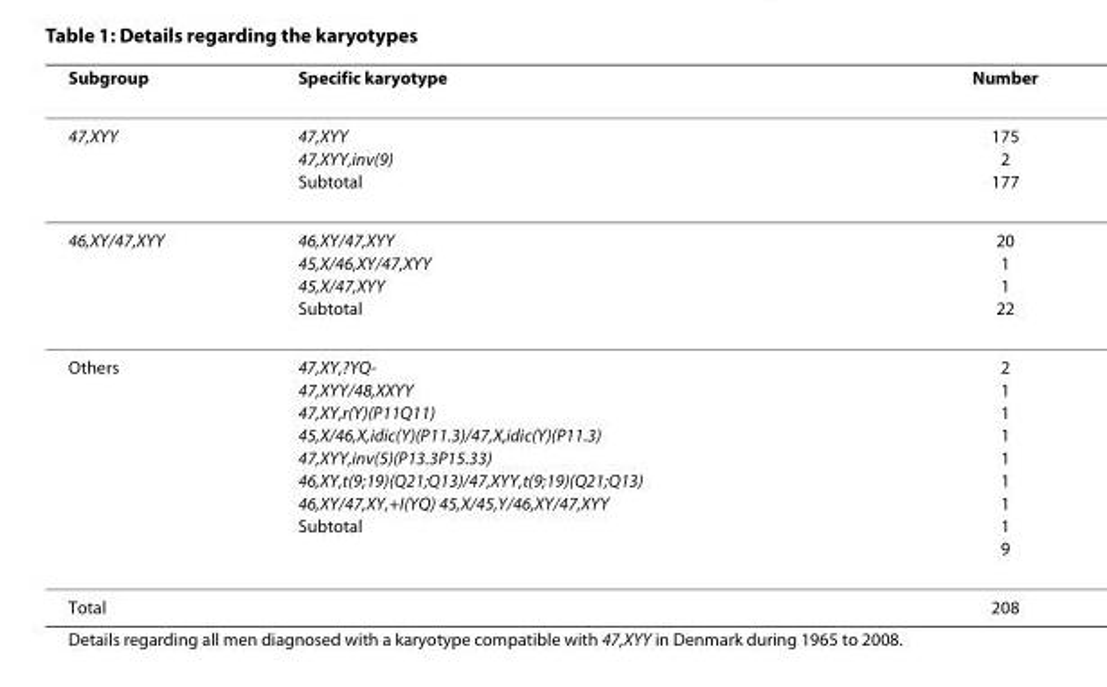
<table><thead><tr><td>Subgroup</td><td>Specific karyotype</td><td>Number</td></tr></thead><tbody><tr><td>47,XYY</td><td>47,XYY 47,XYY,inv(9) Subtotal</td><td>175 2 177</td></tr><tr><td>46,XY/47,XYY</td><td>46,XY/47,XYY 45,X/46,XY/47,XYY 45,X/47,XYY Subtotal</td><td>20 1 1 22</td></tr><tr><td>Others</td><td>47,XY,?YQ- 47,XYY/48,XXYY 47,XY,r(Y)(P11Q11) 45,X/46,X,idic(Y)(P11.3)/47,X,idic(Y)(P11.3) 47,XYY,inv(5)(P13.3P15.33) 46,XY,t(9;19)(Q21;Q13)/47,XYY,t(9;19)(Q21;Q13) 46,XY/47,XY,+I(YQ) 45,X/45,Y/46,XY/47,XYY Subtotal</td><td>2 1 1 1 1 1 1 1 9</td></tr><tr><td>Total</td><td></td><td>208</td></tr></tbody></table>